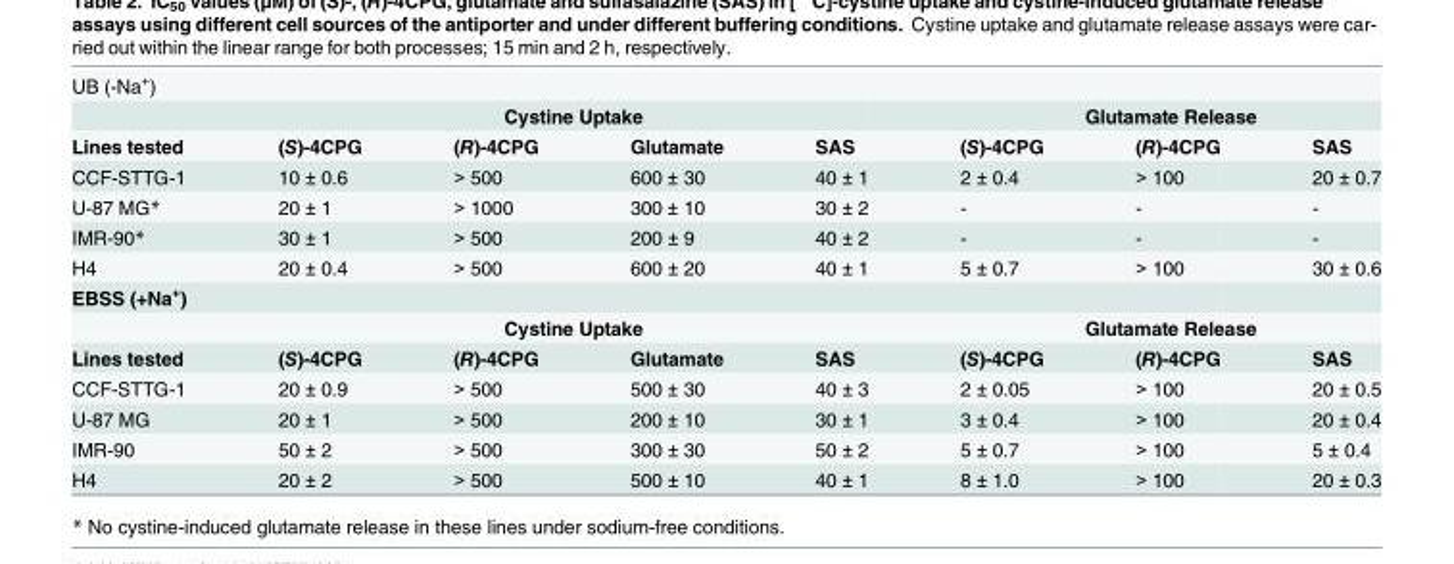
<table><tbody><tr><td colspan="8">UB (-Na<sup>+</sup>)</td></tr><tr><td></td><td colspan="4">Cystine Uptake</td><td colspan="3">Glutamate Release</td></tr><tr><td>Lines tested</td><td>(S)-4CPG</td><td>(R)-4CPG</td><td>Glutamate</td><td>SAS</td><td>(S)-4CPG</td><td>(R)-4CPG</td><td>SAS</td></tr><tr><td>CCF-STTG-1</td><td>10 ± 0.6</td><td>&gt; 500</td><td>600 ± 30</td><td>40 ± 1</td><td>2 ± 0.4</td><td>&gt; 100</td><td>20 ± 0.7</td></tr><tr><td>U-87 MG*</td><td>20 ± 1</td><td>&gt; 1000</td><td>300 ± 10</td><td>30 ± 2</td><td>-</td><td>-</td><td>-</td></tr><tr><td>IMR-90*</td><td>30 ± 1</td><td>&gt; 500</td><td>200 ± 9</td><td>40 ± 2</td><td>-</td><td>-</td><td>-</td></tr><tr><td>H4</td><td>20 ± 0.4</td><td>&gt; 500</td><td>600 ± 20</td><td>40 ± 1</td><td>5 ± 0.7</td><td>&gt; 100</td><td>30 ± 0.6</td></tr><tr><td colspan="8">EBSS (+Na<sup>+</sup>)</td></tr><tr><td></td><td colspan="4">Cystine Uptake</td><td colspan="3">Glutamate Release</td></tr><tr><td>Lines tested</td><td>(S)-4CPG</td><td>(R)-4CPG</td><td>Glutamate</td><td>SAS</td><td>(S)-4CPG</td><td>(R)-4CPG</td><td>SAS</td></tr><tr><td>CCF-STTG-1</td><td>20 ± 0.9</td><td>&gt; 500</td><td>500 ± 30</td><td>40 ± 3</td><td>2 ± 0.05</td><td>&gt; 100</td><td>20 ± 0.5</td></tr><tr><td>U-87 MG</td><td>20 ± 1</td><td>&gt; 500</td><td>200 ± 10</td><td>30 ± 1</td><td>3 ± 0.4</td><td>&gt; 100</td><td>20 ± 0.4</td></tr><tr><td>IMR-90</td><td>50 ± 2</td><td>&gt; 500</td><td>300 ± 30</td><td>50 ± 2</td><td>5 ± 0.7</td><td>&gt; 100</td><td>5 ± 0.4</td></tr><tr><td>H4</td><td>20 ± 2</td><td>&gt; 500</td><td>500 ± 10</td><td>40 ± 1</td><td>8 ± 1.0</td><td>&gt; 100</td><td>20 ± 0.3</td></tr></tbody></table>